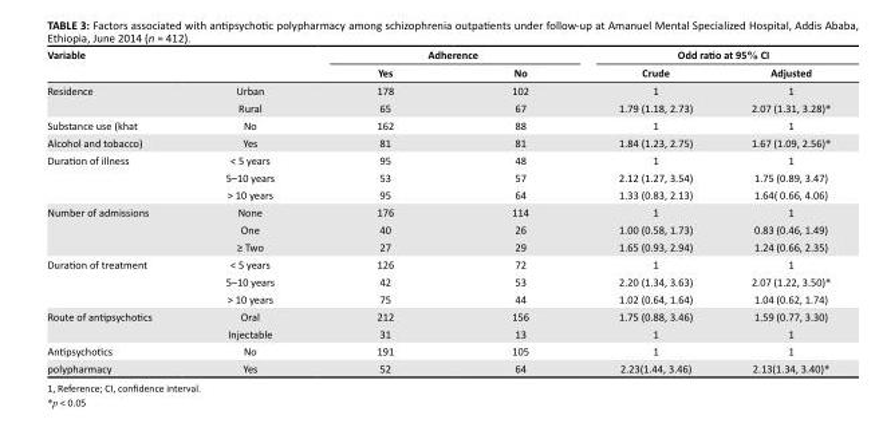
<table><thead><tr><td rowspan="2" colspan="2">Variable</td><td colspan="2">Adherence</td><td colspan="2">Odd ratio at 95% CI</td></tr><tr><td rowspan="2">Yes 178</td><td rowspan="2">No 102</td><td rowspan="2">Crude 1</td><td rowspan="2">Adjusted 1</td></tr><tr><td>Residence</td><td>Urban</td></tr></thead><tbody><tr><td></td><td>Rural</td><td>65</td><td>67</td><td>1.79 (1.18, 2.73)</td><td>2.07 (1.31, 3.28)*</td></tr><tr><td>Substance use (khat</td><td>No</td><td>162</td><td>88</td><td>1</td><td>1</td></tr><tr><td>Alcohol and tobacco)</td><td>Yes</td><td>81</td><td>81</td><td>1.84 (1.23, 2.75)</td><td>1.67 (1.09, 2.56)*</td></tr><tr><td rowspan="3">Duration of illness</td><td>&lt; 5 years</td><td>95</td><td>48</td><td>1</td><td>1</td></tr><tr><td>5–10 years</td><td>53</td><td>57</td><td>2.12 (1.27, 3.54)</td><td>1.75 (0.89, 3.47)</td></tr><tr><td>&gt; 10 years</td><td>95</td><td>64</td><td>1.33 (0.83, 2.13)</td><td>1.64( 0.66, 4.06)</td></tr><tr><td rowspan="3">Number of admissions</td><td>None</td><td>176</td><td>114</td><td>1</td><td>1</td></tr><tr><td>One</td><td>40</td><td>26</td><td>1.00 (0.58, 1.73)</td><td>0.83 (0.46, 1.49)</td></tr><tr><td>≥ Two</td><td>27</td><td>29</td><td>1.65 (0.93, 2.94)</td><td>1.24 (0.66, 2.35)</td></tr><tr><td rowspan="3">Duration of treatment</td><td>&lt; 5 years</td><td>126</td><td>72</td><td>1</td><td>1</td></tr><tr><td>5–10 years</td><td>42</td><td>53</td><td>2.20 (1.34, 3.63)</td><td>2.07 (1.22, 3.50)*</td></tr><tr><td>&gt; 10 years</td><td>75</td><td>44</td><td>1.02 (0.64, 1.64)</td><td>1.04 (0.62, 1.74)</td></tr><tr><td rowspan="2">Route of antipsychotics</td><td>Oral</td><td>212</td><td>156</td><td>1.75 (0.88, 3.46)</td><td>1.59 (0.77, 3.30)</td></tr><tr><td>Injectable</td><td>31</td><td>13</td><td>1</td><td>1</td></tr><tr><td>Antipsychotics</td><td>No</td><td>191</td><td>105</td><td>1</td><td>1</td></tr><tr><td>polypharmacy</td><td>Yes</td><td>52</td><td>64</td><td>2.23(1.44, 3.46)</td><td>2.13(1.34, 3.40)*</td></tr></tbody></table>